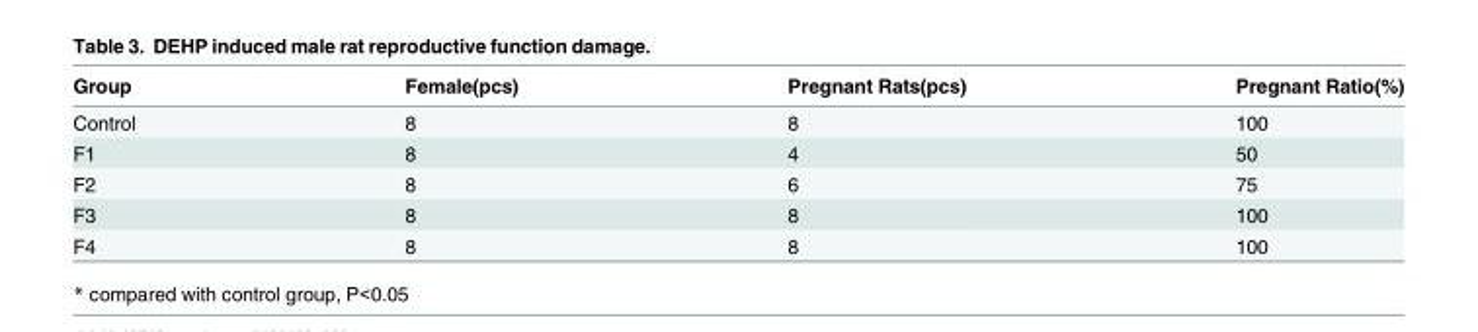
<table><thead><tr><td>Group</td><td>Female(pcs)</td><td>Pregnant Rats(pcs)</td><td>Pregnant Ratio(%)</td></tr></thead><tbody><tr><td>Control</td><td>8</td><td>8</td><td>100</td></tr><tr><td>F1</td><td>8</td><td>4</td><td>50</td></tr><tr><td>F2</td><td>8</td><td>6</td><td>75</td></tr><tr><td>F3</td><td>8</td><td>8</td><td>100</td></tr><tr><td>F4</td><td>8</td><td>8</td><td>100</td></tr></tbody></table>